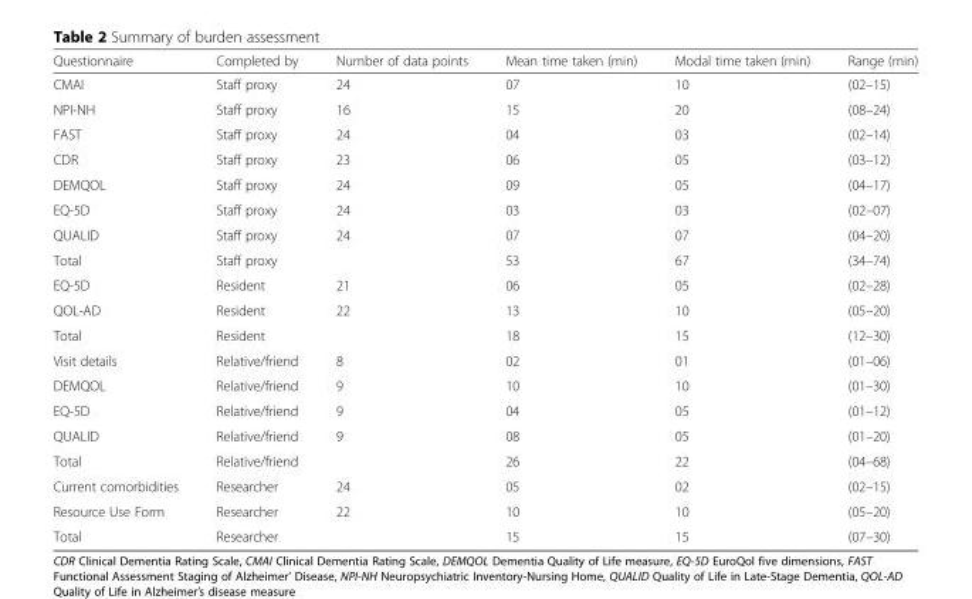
<table><thead><tr><td>Questionnaire</td><td>Completed by</td><td>Number of data points</td><td>Mean time taken (min)</td><td>Modal time taken (min)</td><td>Range (min)</td></tr></thead><tbody><tr><td>CMAI</td><td>Staff proxy</td><td>24</td><td>07</td><td>10</td><td>(02–15)</td></tr><tr><td>NPI-NH</td><td>Staff proxy</td><td>16</td><td>15</td><td>20</td><td>(08–24)</td></tr><tr><td>FAST</td><td>Staff proxy</td><td>24</td><td>04</td><td>03</td><td>(02–14)</td></tr><tr><td>CDR</td><td>Staff proxy</td><td>23</td><td>06</td><td>05</td><td>(03–12)</td></tr><tr><td>DEMQOL</td><td>Staff proxy</td><td>24</td><td>09</td><td>05</td><td>(04–17)</td></tr><tr><td>EQ-5D</td><td>Staff proxy</td><td>24</td><td>03</td><td>03</td><td>(02–07)</td></tr><tr><td>QUALID</td><td>Staff proxy</td><td>24</td><td>07</td><td>07</td><td>(04–20)</td></tr><tr><td>Total</td><td>Staff proxy</td><td></td><td>53</td><td>67</td><td>(34–74)</td></tr><tr><td>EQ-5D</td><td>Resident</td><td>21</td><td>06</td><td>05</td><td>(02–28)</td></tr><tr><td>QOL-AD</td><td>Resident</td><td>22</td><td>13</td><td>10</td><td>(05–20)</td></tr><tr><td>Total</td><td>Resident</td><td></td><td>18</td><td>15</td><td>(12–30)</td></tr><tr><td>Visit details</td><td>Relative/friend</td><td>8</td><td>02</td><td>01</td><td>(01–06)</td></tr><tr><td>DEMQOL</td><td>Relative/friend</td><td>9</td><td>10</td><td>10</td><td>(01–30)</td></tr><tr><td>EQ-5D</td><td>Relative/friend</td><td>9</td><td>04</td><td>05</td><td>(01–12)</td></tr><tr><td>QUALID</td><td>Relative/friend</td><td>9</td><td>08</td><td>05</td><td>(01–20)</td></tr><tr><td>Total</td><td>Relative/friend</td><td></td><td>26</td><td>22</td><td>(04–68)</td></tr><tr><td>Current comorbidities</td><td>Researcher</td><td>24</td><td>05</td><td>02</td><td>(02–15)</td></tr><tr><td>Resource Use Form</td><td>Researcher</td><td>22</td><td>10</td><td>10</td><td>(05–20)</td></tr><tr><td>Total</td><td>Researcher</td><td></td><td>15</td><td>15</td><td>(07–30)</td></tr></tbody></table>